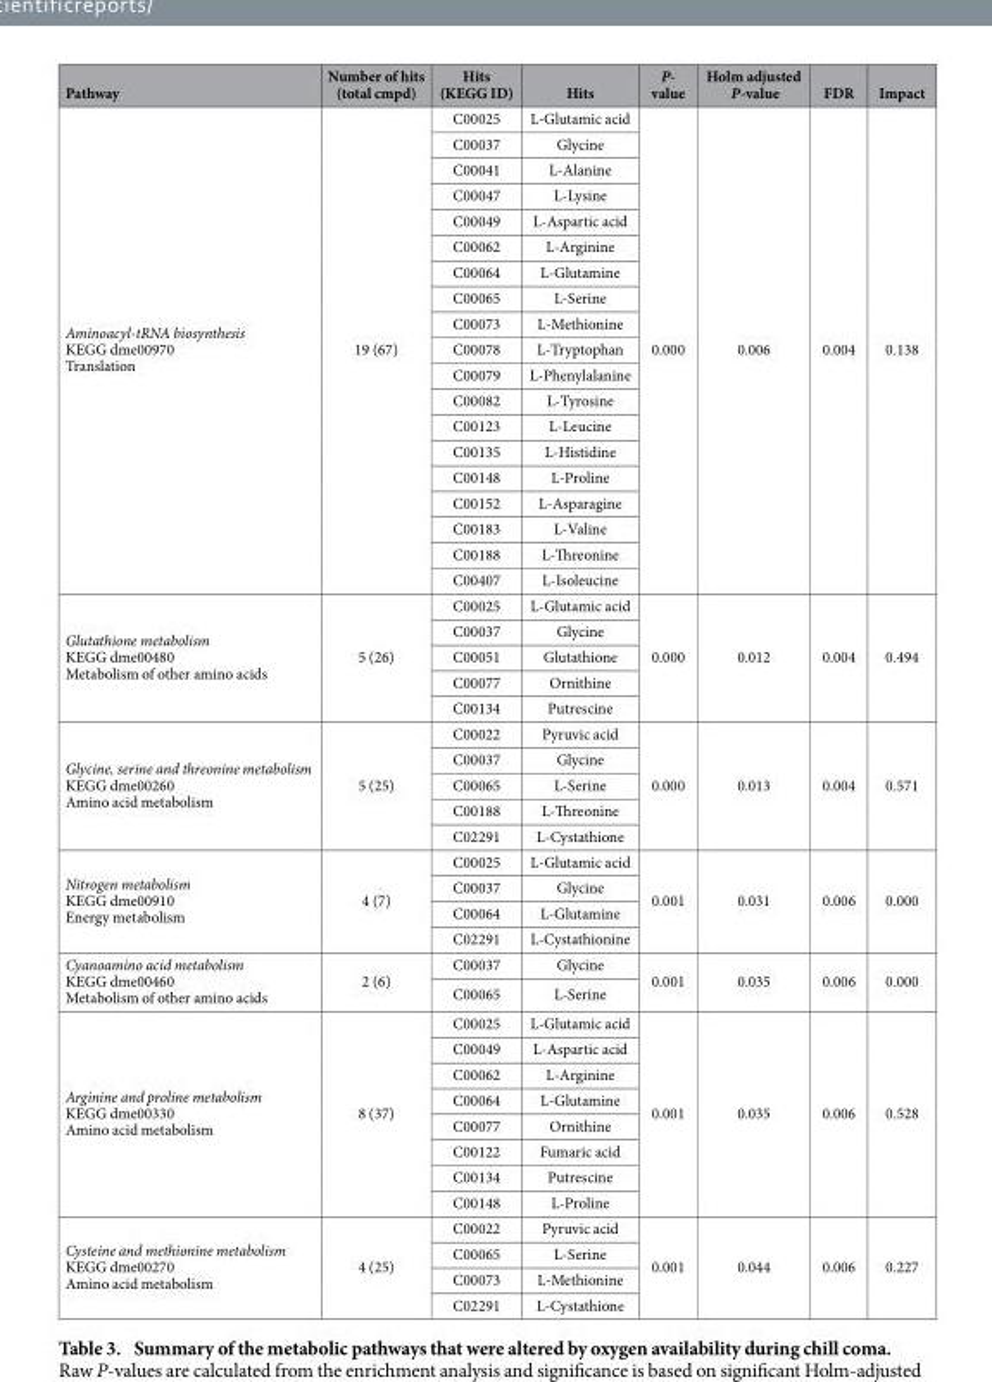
<table><thead><tr><td>Pathway</td><td>Number of hits (total cmpd)</td><td>Hits (KEGG ID)</td><td>Hits</td><td>P- value</td><td>Holm adjusted P-value</td><td>FDR</td><td>Impact</td></tr></thead><tbody><tr><td rowspan="19">Aminoacyl-tRNA biosynthesis KEGG dme00970 Translation</td><td rowspan="19">19 (67)</td><td>C00025</td><td>L-Glutamic acid</td><td rowspan="19">0.000</td><td rowspan="19">0.006</td><td rowspan="19">0.004</td><td rowspan="19">0.138</td></tr><tr><td>C00037</td><td>Glycine</td></tr><tr><td>C00041</td><td>L-Alanine</td></tr><tr><td>C00047</td><td>L-Lysine</td></tr><tr><td>C00049</td><td>L-Aspartic acid</td></tr><tr><td>C00062</td><td>L-Arginine</td></tr><tr><td>C00064</td><td>L-Glutamine</td></tr><tr><td>C00065</td><td>L-Serine</td></tr><tr><td>C00073</td><td>L-Methionine</td></tr><tr><td>C00078</td><td>L-Tryptophan</td></tr><tr><td>C00079</td><td>L-Phenylalanine</td></tr><tr><td>C00082</td><td>L-Tyrosine</td></tr><tr><td>C00123</td><td>L-Leucine</td></tr><tr><td>C00135</td><td>L-Histidine</td></tr><tr><td>C00148</td><td>L-Proline</td></tr><tr><td>C00152</td><td>L-Asparagine</td></tr><tr><td>C00183</td><td>L-Valine</td></tr><tr><td>C00188</td><td>L-Threonine</td></tr><tr><td>C00407</td><td>L-Isoleucine</td></tr><tr><td rowspan="5">Glutathione metabolism KEGG dme00480 Metabolism of other amino acids</td><td rowspan="5">5 (26)</td><td>C00025</td><td>L-Glutamic acid</td><td rowspan="5">0.000</td><td rowspan="5">0.012</td><td rowspan="5">0.004</td><td rowspan="5">0.494</td></tr><tr><td>C00037</td><td>Glycine</td></tr><tr><td>C00051</td><td>Glutathione</td></tr><tr><td>C00077</td><td>Ornithine</td></tr><tr><td>C00134</td><td>Putrescine</td></tr><tr><td rowspan="5">Glycine, serine and threonine metabolism KEGG dme00260 Amino acid metabolism</td><td rowspan="5">5 (25)</td><td>C00022</td><td>Pyruvic acid</td><td rowspan="5">0.000</td><td rowspan="5">0.013</td><td rowspan="5">0.004</td><td rowspan="5">0.571</td></tr><tr><td>C00037</td><td>Glycine</td></tr><tr><td>C00065</td><td>L-Serine</td></tr><tr><td>C00188</td><td>L-Threonine</td></tr><tr><td>C02291</td><td>L-Cystathione</td></tr><tr><td rowspan="4">Nitrogen metabolism KEGG dme00910 Energy metabolism</td><td rowspan="4">4 (7)</td><td>C00025</td><td>L-Glutamic acid</td><td rowspan="4">0.001</td><td rowspan="4">0.031</td><td rowspan="4">0.006</td><td rowspan="4">0.000</td></tr><tr><td>C00037</td><td>Glycine</td></tr><tr><td>C00064</td><td>L-Glutamine</td></tr><tr><td>C02291</td><td>L-Cystathionine</td></tr><tr><td rowspan="2">Cyanoamino acid metabolism KEGG dme00460 Metabolism of other amino acids</td><td rowspan="2">2 (6)</td><td>C00037</td><td>Glycine</td><td rowspan="2">0.001</td><td rowspan="2">0.035</td><td rowspan="2">0.006</td><td rowspan="2">0.000</td></tr><tr><td>C00065</td><td>L-Serine</td></tr><tr><td rowspan="8">Arginine and proline metabolism KEGG dme00330 Amino acid metabolism</td><td rowspan="8">8 (37)</td><td>C00025</td><td>L-Glutamic acid</td><td rowspan="8">0.001</td><td rowspan="8">0.035</td><td rowspan="8">0.006</td><td rowspan="8">0.528</td></tr><tr><td>C00049</td><td>L-Aspartic acid</td></tr><tr><td>C00062</td><td>L-Arginine</td></tr><tr><td>C00064</td><td>L-Glutamine</td></tr><tr><td>C00077</td><td>Ornithine</td></tr><tr><td>C00122</td><td>Fumaric acid</td></tr><tr><td>C00134</td><td>Putrescine</td></tr><tr><td>C00148</td><td>L-Proline</td></tr><tr><td rowspan="4">Cysteine and methionine metabolism KEGG dme00270 Amino acid metabolism</td><td rowspan="4">4 (25)</td><td>C00022</td><td>Pyruvic acid</td><td rowspan="4">0.001</td><td rowspan="4">0.044</td><td rowspan="4">0.006</td><td rowspan="4">0.227</td></tr><tr><td>C00065</td><td>L-Serine</td></tr><tr><td>C00073</td><td>L-Methionine</td></tr><tr><td>C02291</td><td>L-Cystathione</td></tr></tbody></table>